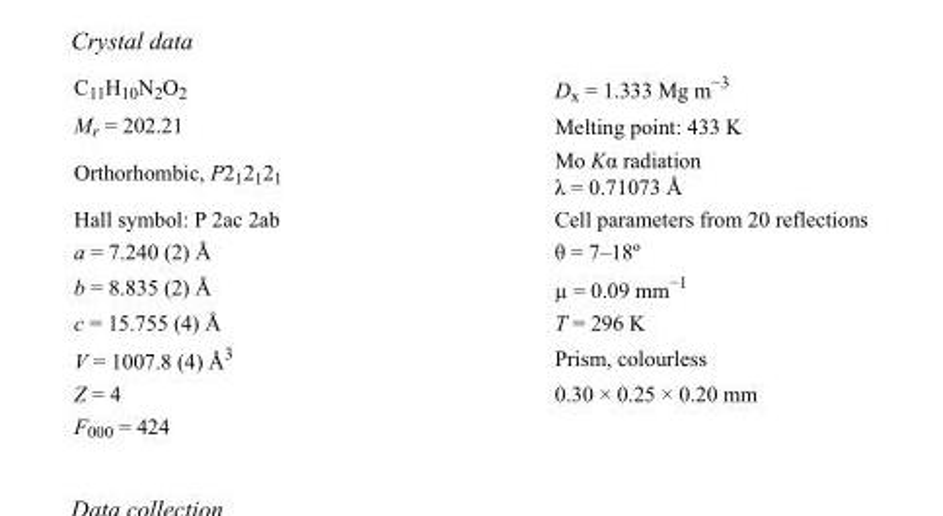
<table><tbody><tr><td>C<sub>11</sub>H<sub>10</sub>N<sub>2</sub>O<sub>2</sub></td><td>D<sub>x</sub> = 1.333 Mg m<sup>−3</sup></td></tr><tr><td>M<sub>r</sub> = 202.21</td><td>Melting point: 433 K</td></tr><tr><td>Orthorhombic, P2<sub>1</sub>2<sub>1</sub>2<sub>1</sub></td><td>Mo Kα radiation λ = 0.71073 Å</td></tr><tr><td>Hall symbol: P 2ac 2ab</td><td>Cell parameters from 20 reflections</td></tr><tr><td>a = 7.240 (2) Å</td><td>θ = 7–18º</td></tr><tr><td>b = 8.835 (2) Å</td><td>µ = 0.09 mm<sup>−1</sup></td></tr><tr><td>c = 15.755 (4) Å</td><td>T = 296 K</td></tr><tr><td>V = 1007.8 (4) Å<sup>3</sup></td><td>Prism, colourless</td></tr><tr><td>Z = 4</td><td>0.30 × 0.25 × 0.20 mm</td></tr><tr><td>F000 = 424</td><td></td></tr></tbody></table>